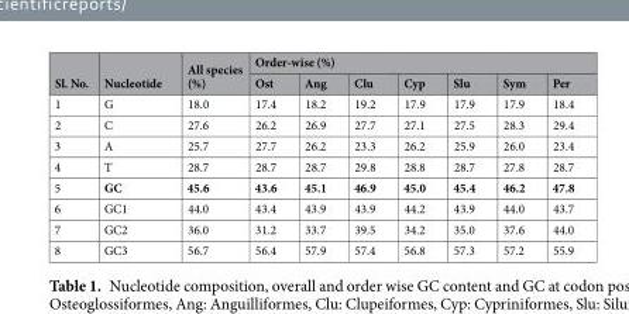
<table><thead><tr><td rowspan="2">Sl. No.</td><td rowspan="2">Nucleotide</td><td rowspan="2">All species (%)</td><td colspan="7">Order-wise (%)</td></tr><tr><td>Ost</td><td>Ang</td><td>Clu</td><td>Cyp</td><td>Slu</td><td>Sym</td><td>Per</td></tr></thead><tbody><tr><td>1</td><td>G</td><td>18.0</td><td>17.4</td><td>18.2</td><td>19.2</td><td>17.9</td><td>17.9</td><td>17.9</td><td>18.4</td></tr><tr><td>2</td><td>C</td><td>27.6</td><td>26.2</td><td>26.9</td><td>27.7</td><td>27.1</td><td>27.5</td><td>28.3</td><td>29.4</td></tr><tr><td>3</td><td>A</td><td>25.7</td><td>27.7</td><td>26.2</td><td>23.3</td><td>26.2</td><td>25.9</td><td>26.0</td><td>23.4</td></tr><tr><td>4</td><td>T</td><td>28.7</td><td>28.7</td><td>28.7</td><td>29.8</td><td>28.8</td><td>28.7</td><td>27.8</td><td>28.7</td></tr><tr><td>5</td><td>GC</td><td>45.6</td><td>43.6</td><td>45.1</td><td>46.9</td><td>45.0</td><td>45.4</td><td>46.2</td><td>47.8</td></tr><tr><td>6</td><td>GC1</td><td>44.0</td><td>43.4</td><td>43.9</td><td>43.9</td><td>44.2</td><td>43.9</td><td>44.0</td><td>43.7</td></tr><tr><td>7</td><td>GC2</td><td>36.0</td><td>31.2</td><td>33.7</td><td>39.5</td><td>34.2</td><td>35.0</td><td>37.6</td><td>44.0</td></tr><tr><td>8</td><td>GC3</td><td>56.7</td><td>56.4</td><td>57.9</td><td>57.4</td><td>56.8</td><td>57.3</td><td>57.2</td><td>55.9</td></tr></tbody></table>